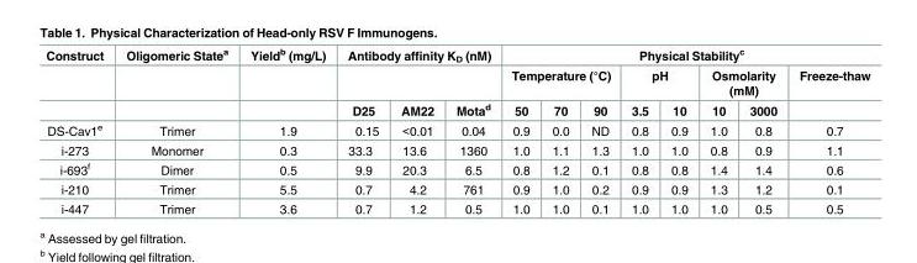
<table><thead><tr><td rowspan="3">Construct</td><td rowspan="3">Oligomeric State<sup>a</sup></td><td rowspan="3">Yield<sup>b</sup> (mg/L)</td><td colspan="3">Antibody affinity K<sub>D</sub> (nM)</td><td colspan="8">Physical Stability<sup>c</sup></td></tr><tr><td rowspan="2">D25</td><td rowspan="2">AM22</td><td rowspan="2">Mota<sup>d</sup></td><td colspan="3">Temperature (°C)</td><td colspan="2">pH</td><td colspan="2">Osmolarity (mM)</td><td rowspan="2">Freeze-thaw</td></tr><tr><td>50</td><td>70</td><td>90</td><td>3.5</td><td>10</td><td>10</td><td>3000</td></tr></thead><tbody><tr><td>DS-Cav1<sup>e</sup></td><td>Trimer</td><td>1.9</td><td>0.15</td><td>&lt;0.01</td><td>0.04</td><td>0.9</td><td>0.0</td><td>ND</td><td>0.8</td><td>0.9</td><td>1.0</td><td>0.8</td><td>0.7</td></tr><tr><td>i-273</td><td>Monomer</td><td>0.3</td><td>33.3</td><td>13.6</td><td>1360</td><td>1.0</td><td>1.1</td><td>1.3</td><td>1.0</td><td>1.0</td><td>0.8</td><td>0.9</td><td>1.1</td></tr><tr><td>i-693<sup>f</sup></td><td>Dimer</td><td>0.5</td><td>9.9</td><td>20.3</td><td>6.5</td><td>0.8</td><td>1.2</td><td>0.1</td><td>0.8</td><td>0.8</td><td>1.4</td><td>1.4</td><td>0.6</td></tr><tr><td>i-210</td><td>Trimer</td><td>5.5</td><td>0.7</td><td>4.2</td><td>761</td><td>0.9</td><td>1.0</td><td>0.2</td><td>0.9</td><td>0.9</td><td>1.3</td><td>1.2</td><td>0.1</td></tr><tr><td>i-447</td><td>Trimer</td><td>3.6</td><td>0.7</td><td>1.2</td><td>0.5</td><td>1.0</td><td>1.0</td><td>0.1</td><td>1.0</td><td>1.0</td><td>1.0</td><td>0.5</td><td>0.5</td></tr></tbody></table>